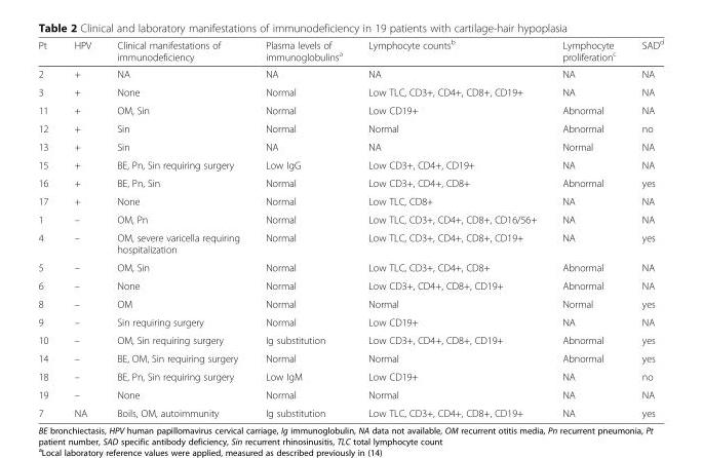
<table><thead><tr><td>Pt</td><td>HPV</td><td>Clinical manifestations of immunodeficiency</td><td>Plasma levels of immunoglobulins<sup>a</sup></td><td>Lymphocyte counts<sup>b</sup></td><td>Lymphocyte proliferation<sup>c</sup></td><td>SAD<sup>d</sup></td></tr></thead><tbody><tr><td>2</td><td>+</td><td>NA</td><td>NA</td><td>NA</td><td>NA</td><td>NA</td></tr><tr><td>3</td><td>+</td><td>None</td><td>Normal</td><td>Low TLC, CD3+, CD4+, CD8+, CD19+</td><td>NA</td><td>NA</td></tr><tr><td>11</td><td>+</td><td>OM, Sin</td><td>Normal</td><td>Low CD19+</td><td>Abnormal</td><td>NA</td></tr><tr><td>12</td><td>+</td><td>Sin</td><td>Normal</td><td>Normal</td><td>Abnormal</td><td>no</td></tr><tr><td>13</td><td>+</td><td>Sin</td><td>NA</td><td>NA</td><td>Normal</td><td>NA</td></tr><tr><td>15</td><td>+</td><td>BE, Pn, Sin requiring surgery</td><td>Low IgG</td><td>Low CD3+, CD4+, CD19+</td><td>NA</td><td>NA</td></tr><tr><td>16</td><td>+</td><td>BE, Pn, Sin</td><td>Normal</td><td>Low CD3+, CD4+, CD8+</td><td>Abnormal</td><td>yes</td></tr><tr><td>17</td><td>+</td><td>None</td><td>Normal</td><td>Low TLC, CD8+</td><td>NA</td><td>NA</td></tr><tr><td>1</td><td>–</td><td>OM, Pn</td><td>Normal</td><td>Low TLC, CD3+, CD4+, CD8+, CD16/56+</td><td>NA</td><td>NA</td></tr><tr><td>4</td><td>–</td><td>OM, severe varicella requiring hospitalization</td><td>Normal</td><td>Low TLC, CD3+, CD4+, CD8+, CD19+</td><td>NA</td><td>yes</td></tr><tr><td>5</td><td>–</td><td>OM, Sin</td><td>Normal</td><td>Low TLC, CD3+, CD4+, CD8+</td><td>Abnormal</td><td>NA</td></tr><tr><td>6</td><td>–</td><td>None</td><td>Normal</td><td>Low CD3+, CD4+, CD8+, CD19+</td><td>Abnormal</td><td>NA</td></tr><tr><td>8</td><td>–</td><td>OM</td><td>Normal</td><td>Normal</td><td>Normal</td><td>yes</td></tr><tr><td>9</td><td>–</td><td>Sin requiring surgery</td><td>Normal</td><td>Low CD19+</td><td>NA</td><td>NA</td></tr><tr><td>10</td><td>–</td><td>OM, Sin requiring surgery</td><td>Ig substitution</td><td>Low CD3+, CD4+, CD8+, CD19+</td><td>Abnormal</td><td>yes</td></tr><tr><td>14</td><td>–</td><td>BE, OM, Sin requiring surgery</td><td>Normal</td><td>Normal</td><td>Abnormal</td><td>yes</td></tr><tr><td>18</td><td>–</td><td>BE, Pn, Sin requiring surgery</td><td>Low IgM</td><td>Low CD19+</td><td>NA</td><td>no</td></tr><tr><td>19</td><td>–</td><td>None</td><td>Normal</td><td>Normal</td><td>NA</td><td>NA</td></tr><tr><td>7</td><td>NA</td><td>Boils, OM, autoimmunity</td><td>Ig substitution</td><td>Low TLC, CD3+, CD4+, CD8+, CD19+</td><td>NA</td><td>yes</td></tr></tbody></table>